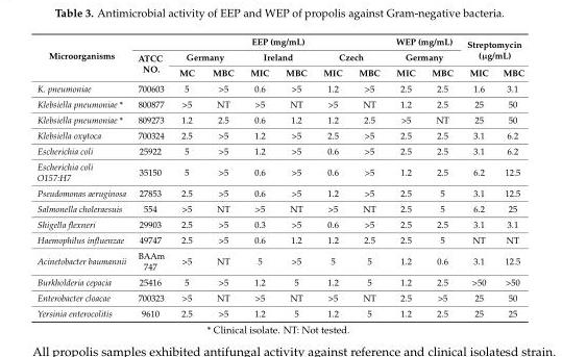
<table><thead><tr><td rowspan="3">Microorganisms</td><td rowspan="3">ATCC NO.</td><td colspan="6">EEP (mg/mL)</td><td rowspan="2" colspan="2">WEP (mg/mL) Germany</td><td rowspan="2" colspan="2">Streptomycin (µg/mL)</td></tr><tr><td colspan="2">Germany</td><td colspan="2">Ireland</td><td colspan="2">Czech</td></tr><tr><td>MC</td><td>MBC</td><td>MIC</td><td>MBC</td><td>MIC</td><td>MBC</td><td>MIC</td><td>MBC</td><td>MIC</td><td>MBC</td></tr></thead><tbody><tr><td>K. pneumoniae</td><td>700603</td><td>5</td><td>&gt;5</td><td>0.6</td><td>&gt;5</td><td>1.2</td><td>&gt;5</td><td>2.5</td><td>2.5</td><td>1.6</td><td>3.1</td></tr><tr><td>Klebsiella pneumoniae *</td><td>800877</td><td>&gt;5</td><td>NT</td><td>&gt;5</td><td>NT</td><td>&gt;5</td><td>NT</td><td>1.2</td><td>2.5</td><td>25</td><td>50</td></tr><tr><td>Klebsiella pneumoniae *</td><td>809273</td><td>1.2</td><td>2.5</td><td>0.6</td><td>1.2</td><td>1.2</td><td>2.5</td><td>&gt;5</td><td>NT</td><td>25</td><td>50</td></tr><tr><td>Klebsiella oxytoca</td><td>700324</td><td>2.5</td><td>&gt;5</td><td>1.2</td><td>&gt;5</td><td>2.5</td><td>&gt;5</td><td>2.5</td><td>2.5</td><td>3.1</td><td>6.2</td></tr><tr><td>Escherichia coli</td><td>25922</td><td>5</td><td>&gt;5</td><td>1.2</td><td>&gt;5</td><td>0.6</td><td>&gt;5</td><td>2.5</td><td>2.5</td><td>3.1</td><td>6.2</td></tr><tr><td>Escherichia coli O157:H7</td><td>35150</td><td>5</td><td>&gt;5</td><td>0.6</td><td>&gt;5</td><td>0.6</td><td>&gt;5</td><td>1.2</td><td>2.5</td><td>6.2</td><td>12.5</td></tr><tr><td>Pseudomonas aeruginosa</td><td>27853</td><td>2.5</td><td>&gt;5</td><td>0.6</td><td>&gt;5</td><td>1.2</td><td>&gt;5</td><td>2.5</td><td>5</td><td>3.1</td><td>12.5</td></tr><tr><td>Salmonella choleraesuis</td><td>554</td><td>&gt;5</td><td>NT</td><td>&gt;5</td><td>NT</td><td>&gt;5</td><td>NT</td><td>2.5</td><td>5</td><td>6.2</td><td>25</td></tr><tr><td>Shigella flexneri</td><td>29903</td><td>2.5</td><td>&gt;5</td><td>0.3</td><td>&gt;5</td><td>0.6</td><td>&gt;5</td><td>2.5</td><td>2.5</td><td>3.1</td><td>3.1</td></tr><tr><td>Haemophilus influenzae</td><td>49747</td><td>2.5</td><td>&gt;5</td><td>0.6</td><td>1.2</td><td>1.2</td><td>2.5</td><td>2.5</td><td>5</td><td>NT</td><td>NT</td></tr><tr><td>Acinetobacter baumannii</td><td>BAAm 747</td><td>&gt;5</td><td>NT</td><td>5</td><td>&gt;5</td><td>5</td><td>5</td><td>1.2</td><td>0.6</td><td>3.1</td><td>12.5</td></tr><tr><td>Burkholderia cepacia</td><td>25416</td><td>5</td><td>&gt;5</td><td>1.2</td><td>5</td><td>1.2</td><td>5</td><td>1.2</td><td>2.5</td><td>&gt;50</td><td>&gt;50</td></tr><tr><td>Enterobacter cloacae</td><td>700323</td><td>&gt;5</td><td>NT</td><td>&gt;5</td><td>NT</td><td>&gt;5</td><td>NT</td><td>2.5</td><td>&gt;5</td><td>25</td><td>50</td></tr><tr><td>Yersinia enterocolitis</td><td>9610</td><td>2.5</td><td>&gt;5</td><td>1.2</td><td>5</td><td>1.2</td><td>5</td><td>1.2</td><td>2.5</td><td>25</td><td>25</td></tr></tbody></table>